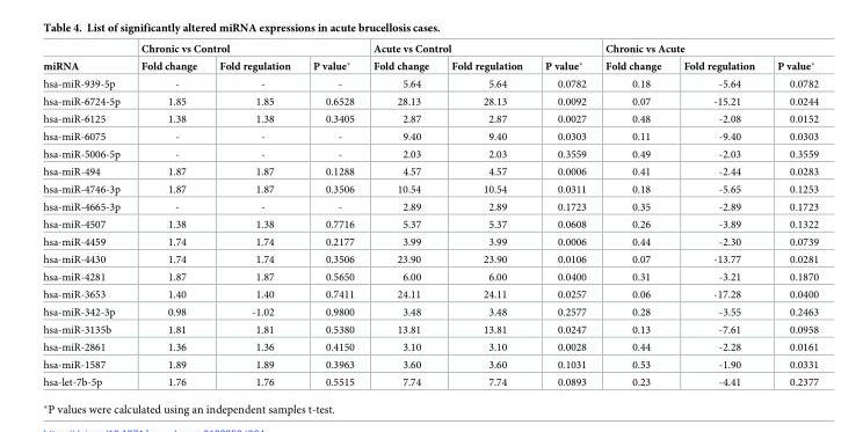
<table><thead><tr><td rowspan="2">miRNA</td><td colspan="3">Chronic vs Control</td><td colspan="3">Acute vs Control</td><td colspan="3">Chronic vs Acute</td></tr><tr><td>Fold change</td><td>Fold regulation</td><td>P value*</td><td>Fold change</td><td>Fold regulation</td><td>P value*</td><td>Fold change</td><td>Fold regulation</td><td>P value*</td></tr></thead><tbody><tr><td>hsa-miR-939-5p</td><td>-</td><td>-</td><td>-</td><td>5.64</td><td>5.64</td><td>0.0782</td><td>0.18</td><td>-5.64</td><td>0.0782</td></tr><tr><td>hsa-miR-6724-5p</td><td>1.85</td><td>1.85</td><td>0.6528</td><td>28.13</td><td>28.13</td><td>0.0092</td><td>0.07</td><td>-15.21</td><td>0.0244</td></tr><tr><td>hsa-miR-6125</td><td>1.38</td><td>1.38</td><td>0.3405</td><td>2.87</td><td>2.87</td><td>0.0027</td><td>0.48</td><td>-2.08</td><td>0.0152</td></tr><tr><td>hsa-miR-6075</td><td>-</td><td>-</td><td>-</td><td>9.40</td><td>9.40</td><td>0.0303</td><td>0.11</td><td>-9.40</td><td>0.0303</td></tr><tr><td>hsa-miR-5006-5p</td><td>-</td><td>-</td><td>-</td><td>2.03</td><td>2.03</td><td>0.3559</td><td>0.49</td><td>-2.03</td><td>0.3559</td></tr><tr><td>hsa-miR-494</td><td>1.87</td><td>1.87</td><td>0.1288</td><td>4.57</td><td>4.57</td><td>0.0006</td><td>0.41</td><td>-2.44</td><td>0.0283</td></tr><tr><td>hsa-miR-4746-3p</td><td>1.87</td><td>1.87</td><td>0.3506</td><td>10.54</td><td>10.54</td><td>0.0311</td><td>0.18</td><td>-5.65</td><td>0.1253</td></tr><tr><td>hsa-miR-4665-3p</td><td>-</td><td>-</td><td>-</td><td>2.89</td><td>2.89</td><td>0.1723</td><td>0.35</td><td>-2.89</td><td>0.1723</td></tr><tr><td>hsa-miR-4507</td><td>1.38</td><td>1.38</td><td>0.7716</td><td>5.37</td><td>5.37</td><td>0.0608</td><td>0.26</td><td>-3.89</td><td>0.1322</td></tr><tr><td>hsa-miR-4459</td><td>1.74</td><td>1.74</td><td>0.2177</td><td>3.99</td><td>3.99</td><td>0.0006</td><td>0.44</td><td>-2.30</td><td>0.0739</td></tr><tr><td>hsa-miR-4430</td><td>1.74</td><td>1.74</td><td>0.3506</td><td>23.90</td><td>23.90</td><td>0.0106</td><td>0.07</td><td>-13.77</td><td>0.0281</td></tr><tr><td>hsa-miR-4281</td><td>1.87</td><td>1.87</td><td>0.5650</td><td>6.00</td><td>6.00</td><td>0.0400</td><td>0.31</td><td>-3.21</td><td>0.1870</td></tr><tr><td>hsa-miR-3653</td><td>1.40</td><td>1.40</td><td>0.7411</td><td>24.11</td><td>24.11</td><td>0.0257</td><td>0.06</td><td>-17.28</td><td>0.0400</td></tr><tr><td>hsa-miR-342-3p</td><td>0.98</td><td>-1.02</td><td>0.9800</td><td>3.48</td><td>3.48</td><td>0.2577</td><td>0.28</td><td>-3.55</td><td>0.2463</td></tr><tr><td>hsa-miR-3135b</td><td>1.81</td><td>1.81</td><td>0.5380</td><td>13.81</td><td>13.81</td><td>0.0247</td><td>0.13</td><td>-7.61</td><td>0.0958</td></tr><tr><td>hsa-miR-2861</td><td>1.36</td><td>1.36</td><td>0.4150</td><td>3.10</td><td>3.10</td><td>0.0028</td><td>0.44</td><td>-2.28</td><td>0.0161</td></tr><tr><td>hsa-miR-1587</td><td>1.89</td><td>1.89</td><td>0.3963</td><td>3.60</td><td>3.60</td><td>0.1031</td><td>0.53</td><td>-1.90</td><td>0.0331</td></tr><tr><td>hsa-let-7b-5p</td><td>1.76</td><td>1.76</td><td>0.5515</td><td>7.74</td><td>7.74</td><td>0.0893</td><td>0.23</td><td>-4.41</td><td>0.2377</td></tr></tbody></table>